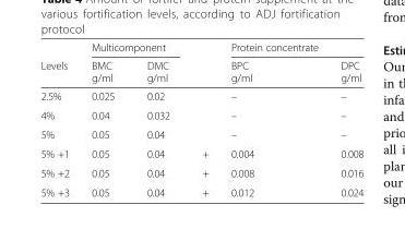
<table><thead><tr><td rowspan="2">Levels</td><td colspan="2">Multicomponent</td><td rowspan="2"></td><td rowspan="2">Protein concentrate BPC g/ml</td><td rowspan="2">DPC g/ml</td></tr><tr><td>BMC g/ml</td><td>DMC g/ml</td></tr></thead><tbody><tr><td>2.5%</td><td>0.025</td><td>0.02</td><td></td><td>–</td><td>–</td></tr><tr><td>4%</td><td>0.04</td><td>0.032</td><td></td><td>–</td><td>–</td></tr><tr><td>5%</td><td>0.05</td><td>0.04</td><td></td><td>–</td><td>–</td></tr><tr><td>5% +1</td><td>0.05</td><td>0.04</td><td>+</td><td>0.004</td><td>0.008</td></tr><tr><td>5% +2</td><td>0.05</td><td>0.04</td><td>+</td><td>0.008</td><td>0.016</td></tr><tr><td>5% +3</td><td>0.05</td><td>0.04</td><td>+</td><td>0.012</td><td>0.024</td></tr></tbody></table>